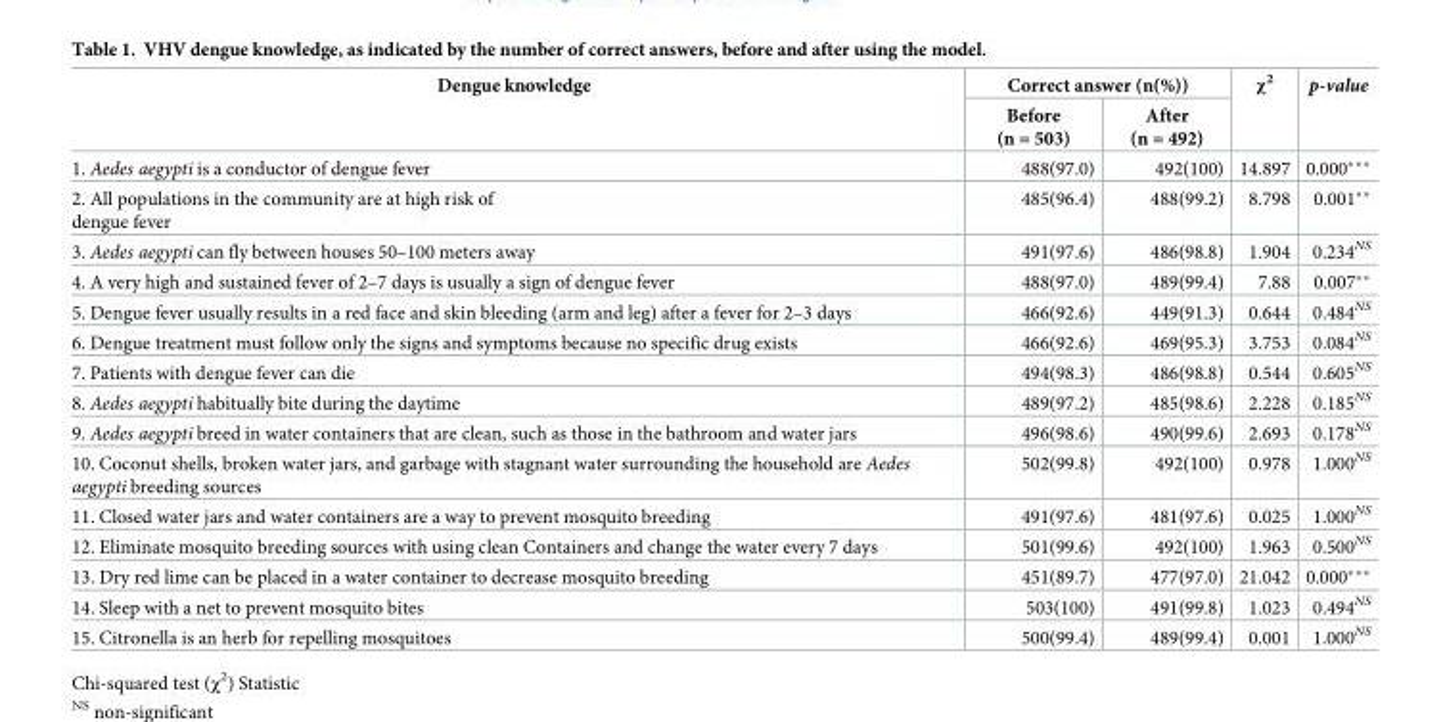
<table><thead><tr><td rowspan="2">Dengue knowledge</td><td colspan="2">Correct answer (n(%))</td><td rowspan="2">χ<sup>2</sup></td><td rowspan="2">p-value</td></tr><tr><td>Before (n = 503)</td><td>After (n = 492)</td></tr></thead><tbody><tr><td>1. Aedes aegypti is a conductor of dengue fever</td><td>488(97.0)</td><td>492(100)</td><td>14.897</td><td>0.000***</td></tr><tr><td>2. All populations in the community are at high risk of dengue fever</td><td>485(96.4)</td><td>488(99.2)</td><td>8.798</td><td>0.001**</td></tr><tr><td>3. Aedes aegypti can fly between houses 50–100 meters away</td><td>491(97.6)</td><td>486(98.8)</td><td>1.904</td><td>0.234<sup>NS</sup></td></tr><tr><td>4. A very high and sustained fever of 2–7 days is usually a sign of dengue fever</td><td>488(97.0)</td><td>489(99.4)</td><td>7.88</td><td>0.007**</td></tr><tr><td>5. Dengue fever usually results in a red face and skin bleeding (arm and leg) after a fever for 2–3 days</td><td>466(92.6)</td><td>449(91.3)</td><td>0.644</td><td>0.484<sup>NS</sup></td></tr><tr><td>6. Dengue treatment must follow only the signs and symptoms because no specific drug exists</td><td>466(92.6)</td><td>469(95.3)</td><td>3.753</td><td>0.084<sup>NS</sup></td></tr><tr><td>7. Patients with dengue fever can die</td><td>494(98.3)</td><td>486(98.8)</td><td>0.544</td><td>0.605<sup>NS</sup></td></tr><tr><td>8. Aedes aegypti habitually bite during the daytime</td><td>489(97.2)</td><td>485(98.6)</td><td>2.228</td><td>0.185<sup>NS</sup></td></tr><tr><td>9. Aedes aegypti breed in water containers that are clean, such as those in the bathroom and water jars</td><td>496(98.6)</td><td>490(99.6)</td><td>2.693</td><td>0.178<sup>NS</sup></td></tr><tr><td>10. Coconut shells, broken water jars, and garbage with stagnant water surrounding the household are Aedes aegypti breeding sources</td><td>502(99.8)</td><td>492(100)</td><td>0.978</td><td>1.000<sup>NS</sup></td></tr><tr><td>11. Closed water jars and water containers are a way to prevent mosquito breeding</td><td>491(97.6)</td><td>481(97.6)</td><td>0.025</td><td>1.000<sup>NS</sup></td></tr><tr><td>12. Eliminate mosquito breeding sources with using clean Containers and change the water every 7 days</td><td>501(99.6)</td><td>492(100)</td><td>1.963</td><td>0.500<sup>NS</sup></td></tr><tr><td>13. Dry red lime can be placed in a water container to decrease mosquito breeding</td><td>451(89.7)</td><td>477(97.0)</td><td>21.042</td><td>0.000***</td></tr><tr><td>14. Sleep with a net to prevent mosquito bites</td><td>503(100)</td><td>491(99.8)</td><td>1.023</td><td>0.494<sup>NS</sup></td></tr><tr><td>15. Citronella is an herb for repelling mosquitoes</td><td>500(99.4)</td><td>489(99.4)</td><td>0.001</td><td>1.000<sup>NS</sup></td></tr></tbody></table>